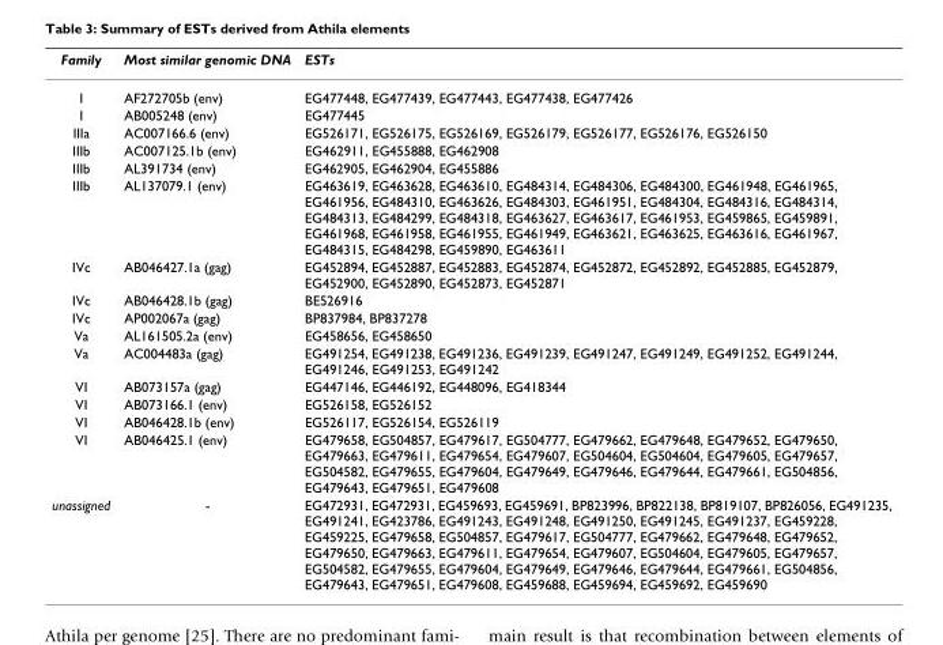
<table><thead><tr><td>Family</td><td>Most similar genomic DNA</td><td>ESTs</td></tr></thead><tbody><tr><td>I</td><td>AF272705b (env)</td><td>EG477448, EG477439, EG477443, EG477438, EG477426</td></tr><tr><td>I</td><td>AB005248 (env)</td><td>EG477445</td></tr><tr><td>IIIa</td><td>AC007166.6 (env)</td><td>EG526171, EG526175, EG526169, EG526179, EG526177, EG526176, EG526150</td></tr><tr><td>IIIb</td><td>AC007125.1b (env)</td><td>EG462911, EG455888, EG462908</td></tr><tr><td>IIIb</td><td>AL391734 (env)</td><td>EG462905, EG462904, EG455886</td></tr><tr><td>IIIb</td><td>AL137079.1 (env)</td><td>EG463619, EG463628, EG463610, EG484314, EG484306, EG484300, EG461948, EG461965, EG461956, EG484310, EG463626, EG484303, EG461951, EG484304, EG484316, EG484314, EG484313, EG484299, EG484318, EG463627, EG463617, EG461953, EG459865, EG459891, EG461968, EG461958, EG461955, EG461949, EG463621, EG463625, EG463616, EG461967, EG484315, EG484298, EG459890, EG463611</td></tr><tr><td>IVc</td><td>AB046427.1a (gag)</td><td>EG452894, EG452887, EG452883, EG452874, EG452872, EG452892, EG452885, EG452879, EG452900, EG452890, EG452873, EG452871</td></tr><tr><td>IVc</td><td>AB046428.1b (gag)</td><td>BE526916</td></tr><tr><td>IVc</td><td>AP002067a (gag)</td><td>BP837984, BP837278</td></tr><tr><td>Va</td><td>AL161505.2a (env)</td><td>EG458656, EG458650</td></tr><tr><td>Va</td><td>AC004483a (gag)</td><td>EG491254, EG491238, EG491236, EG491239, EG491247, EG491249, EG491252, EG491244, EG491246, EG491253, EG491242</td></tr><tr><td>VI</td><td>AB073157a (gag)</td><td>EG447146, EG446192, EG448096, EG418344</td></tr><tr><td>VI</td><td>AB073166.1 (env)</td><td>EG526158, EG526152</td></tr><tr><td>VI</td><td>AB046428.1b (env)</td><td>EG526117, EG526154, EG526119</td></tr><tr><td>VI</td><td>AB046425.1 (env)</td><td>EG479658, EG504857, EG479617, EG504777, EG479662, EG479648, EG479652, EG479650, EG479663, EG479611, EG479654, EG479607, EG504604, EG504604, EG479605, EG479657, EG504582, EG479655, EG479604, EG479649, EG479646, EG479644, EG479661, EG504856, EG479643, EG479651, EG479608</td></tr><tr><td>unassigned</td><td>-</td><td>EG472931, EG472931, EG459693, EG459691, BP823996, BP822138, BP819107, BP826056, EG491235, EG491241, EG423786, EG491243, EG491248, EG491250, EG491245, EG491237, EG459228, EG459225, EG479658, EG504857, EG479617, EG504777, EG479662, EG479648, EG479652, EG479650, EG479663, EG479611, EG479654, EG479607, EG504604, EG479605, EG479657, EG504582, EG479655, EG479604, EG479649, EG479646, EG479644, EG479661, EG504856, EG479643, EG479651, EG479608, EG459688, EG459694, EG459692, EG459690</td></tr></tbody></table>